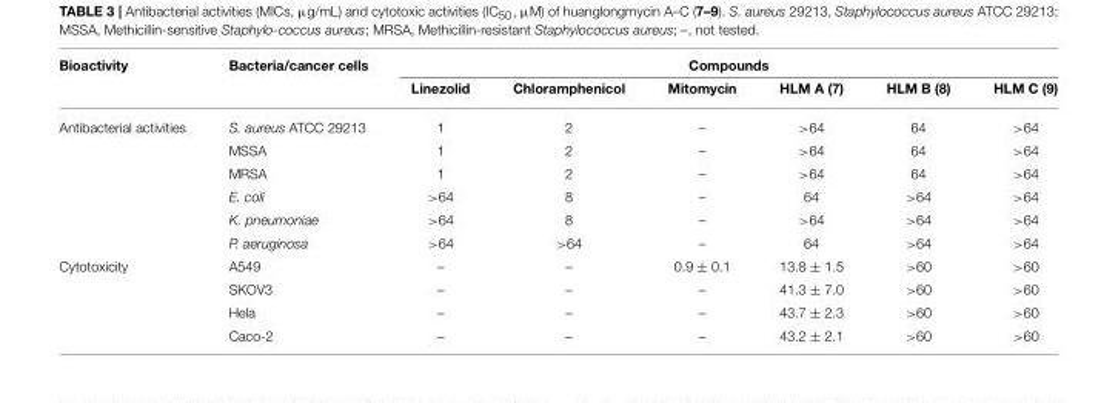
<table><thead><tr><td rowspan="2">Bioactivity</td><td rowspan="2">Bacteria/cancer cells</td><td colspan="6">Compounds</td></tr><tr><td>Linezolid</td><td>Chloramphenicol</td><td>Mitomycin</td><td>HLM A (7)</td><td>HLM B (8)</td><td>HLM C (9)</td></tr></thead><tbody><tr><td rowspan="6">Antibacterial activities</td><td>S. aureus ATCC 29213</td><td>1</td><td>2</td><td>–</td><td>&gt;64</td><td>64</td><td>&gt;64</td></tr><tr><td>MSSA</td><td>1</td><td>2</td><td>–</td><td>&gt;64</td><td>64</td><td>&gt;64</td></tr><tr><td>MRSA</td><td>1</td><td>2</td><td>–</td><td>&gt;64</td><td>64</td><td>&gt;64</td></tr><tr><td>E. coli</td><td>&gt;64</td><td>8</td><td>–</td><td>64</td><td>&gt;64</td><td>&gt;64</td></tr><tr><td>K. pneumoniae</td><td>&gt;64</td><td>8</td><td>–</td><td>&gt;64</td><td>&gt;64</td><td>&gt;64</td></tr><tr><td>P. aeruginosa</td><td>&gt;64</td><td>&gt;64</td><td>–</td><td>64</td><td>&gt;64</td><td>&gt;64</td></tr><tr><td rowspan="4">Cytotoxicity</td><td>A549</td><td>–</td><td>–</td><td>0.9 ± 0.1</td><td>13.8 ± 1.5</td><td>&gt;60</td><td>&gt;60</td></tr><tr><td>SKOV3</td><td>–</td><td>–</td><td>–</td><td>41.3 ± 7.0</td><td>&gt;60</td><td>&gt;60</td></tr><tr><td>Hela</td><td>–</td><td>–</td><td>–</td><td>43.7 ± 2.3</td><td>&gt;60</td><td>&gt;60</td></tr><tr><td>Caco-2</td><td>–</td><td>–</td><td>–</td><td>43.2 ± 2.1</td><td>&gt;60</td><td>&gt;60</td></tr></tbody></table>